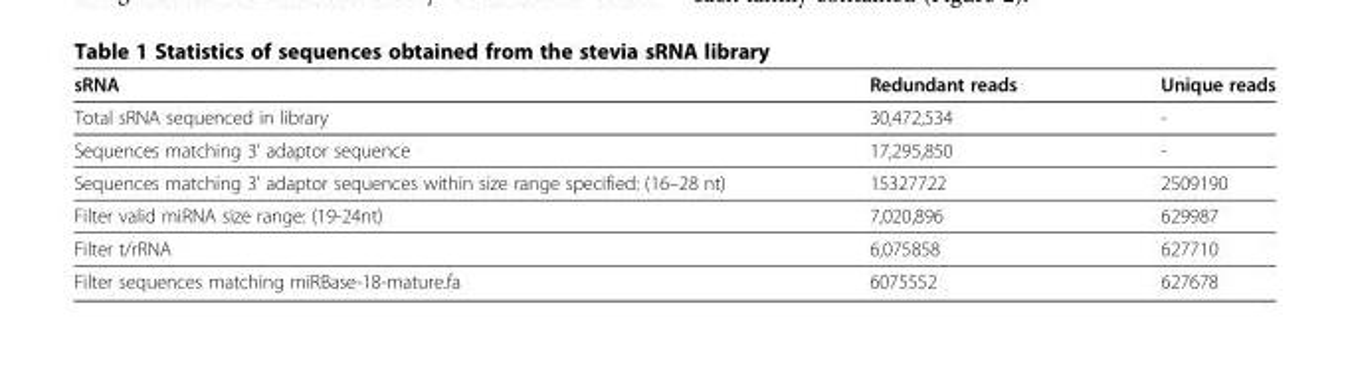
<table><thead><tr><td>sRNA</td><td>Redundant reads</td><td>Unique reads</td></tr></thead><tbody><tr><td>Total sRNA sequenced in library</td><td>30,472,534</td><td>-</td></tr><tr><td>Sequences matching 3’ adaptor sequence</td><td>17,295,850</td><td>-</td></tr><tr><td>Sequences matching 3&#x27; adaptor sequences within size range specified: (16–28 nt)</td><td>15327722</td><td>2509190</td></tr><tr><td>Filter valid miRNA size range: (19-24nt)</td><td>7,020,896</td><td>629987</td></tr><tr><td>Filter t/rRNA</td><td>6,075858</td><td>627710</td></tr><tr><td>Filter sequences matching miRBase-18-mature.fa</td><td>6075552</td><td>627678</td></tr></tbody></table>